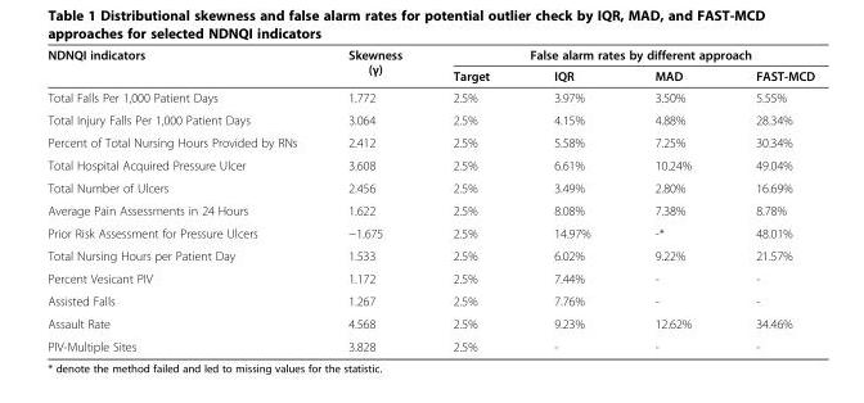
<table><thead><tr><td rowspan="2">NDNQI indicators</td><td rowspan="2">Skewness (γ)</td><td colspan="4">False alarm rates by different approach</td></tr><tr><td>Target</td><td>IQR</td><td>MAD</td><td>FAST-MCD</td></tr></thead><tbody><tr><td>Total Falls Per 1,000 Patient Days</td><td>1.772</td><td>2.5%</td><td>3.97%</td><td>3.50%</td><td>5.55%</td></tr><tr><td>Total Injury Falls Per 1,000 Patient Days</td><td>3.064</td><td>2.5%</td><td>4.15%</td><td>4.88%</td><td>28.34%</td></tr><tr><td>Percent of Total Nursing Hours Provided by RNs</td><td>2.412</td><td>2.5%</td><td>5.58%</td><td>7.25%</td><td>30.34%</td></tr><tr><td>Total Hospital Acquired Pressure Ulcer</td><td>3.608</td><td>2.5%</td><td>6.61%</td><td>10.24%</td><td>49.04%</td></tr><tr><td>Total Number of Ulcers</td><td>2.456</td><td>2.5%</td><td>3.49%</td><td>2.80%</td><td>16.69%</td></tr><tr><td>Average Pain Assessments in 24 Hours</td><td>1.622</td><td>2.5%</td><td>8.08%</td><td>7.38%</td><td>8.78%</td></tr><tr><td>Prior Risk Assessment for Pressure Ulcers</td><td>−1.675</td><td>2.5%</td><td>14.97%</td><td>-*</td><td>48.01%</td></tr><tr><td>Total Nursing Hours per Patient Day</td><td>1.533</td><td>2.5%</td><td>6.02%</td><td>9.22%</td><td>21.57%</td></tr><tr><td>Percent Vesicant PIV</td><td>1.172</td><td>2.5%</td><td>7.44%</td><td>-</td><td>-</td></tr><tr><td>Assisted Falls</td><td>1.267</td><td>2.5%</td><td>7.76%</td><td>-</td><td>-</td></tr><tr><td>Assault Rate</td><td>4.568</td><td>2.5%</td><td>9.23%</td><td>12.62%</td><td>34.46%</td></tr><tr><td>PIV-Multiple Sites</td><td>3.828</td><td>2.5%</td><td>-</td><td>-</td><td>-</td></tr></tbody></table>